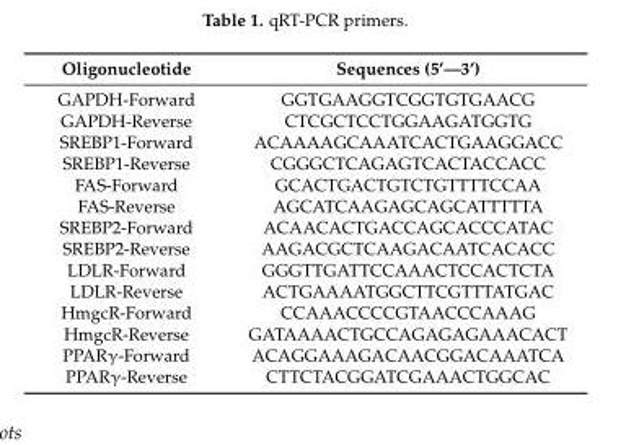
<table><thead><tr><td>Oligonucleotide</td><td>Sequences (5’—3’)</td></tr></thead><tbody><tr><td>GAPDH-Forward</td><td>GGTGAAGGTCGGTGTGAACG</td></tr><tr><td>GAPDH-Reverse</td><td>CTCGCTCCTGGAAGATGGTG</td></tr><tr><td>SREBP1-Forward</td><td>ACAAAAGCAAATCACTGAAGGACC</td></tr><tr><td>SREBP1-Reverse</td><td>CGGGCTCAGAGTCACTACCACC</td></tr><tr><td>FAS-Forward</td><td>GCACTGACTGTCTGTTTTCCAA</td></tr><tr><td>FAS-Reverse</td><td>AGCATCAAGAGCAGCATTTTTA</td></tr><tr><td>SREBP2-Forward</td><td>ACAACACTGACCAGCACCCATAC</td></tr><tr><td>SREBP2-Reverse</td><td>AAGACGCTCAAGACAATCACACC</td></tr><tr><td>LDLR-Forward</td><td>GGGTTGATTCCAAACTCCACTCTA</td></tr><tr><td>LDLR-Reverse</td><td>ACTGAAAATGGCTTCGTTTATGAC</td></tr><tr><td>HmgcR-Forward</td><td>CCAAACCCCGTAACCCAAAG</td></tr><tr><td>HmgcR-Reverse</td><td>GATAAAACTGCCAGAGAGAAACACT</td></tr><tr><td>PPARγ-Forward</td><td>ACAGGAAAGACAACGGACAAATCA</td></tr><tr><td>PPARγ-Reverse</td><td>CTTCTACGGATCGAAACTGGCAC</td></tr></tbody></table>